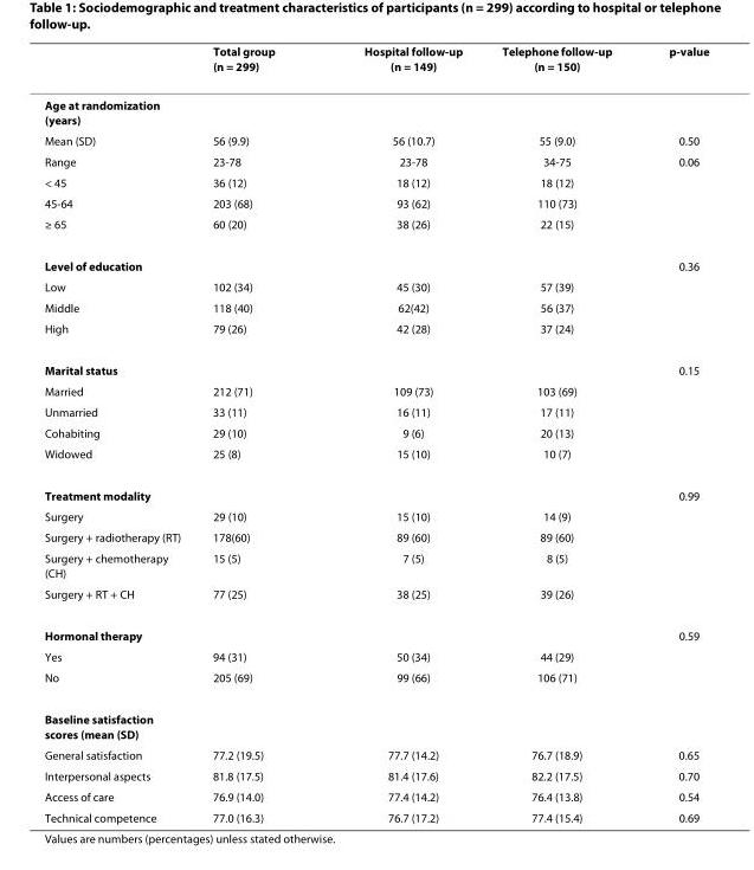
<table><thead><tr><td></td><td>Total group (n = 299)</td><td>Hospital follow-up (n = 149)</td><td>Telephone follow-up (n = 150)</td><td>p-value</td></tr></thead><tbody><tr><td colspan="5">Age at randomization (years)</td></tr><tr><td>Mean (SD)</td><td>56 (9.9)</td><td>56 (10.7)</td><td>55 (9.0)</td><td>0.50</td></tr><tr><td>Range</td><td>23-78</td><td>23-78</td><td>34-75</td><td>0.06</td></tr><tr><td>&lt; 45</td><td>36 (12)</td><td>18 (12)</td><td>18 (12)</td><td></td></tr><tr><td>45-64</td><td>203 (68)</td><td>93 (62)</td><td>110 (73)</td><td></td></tr><tr><td>≥ 65</td><td>60 (20)</td><td>38 (26)</td><td>22 (15)</td><td></td></tr><tr><td>Level of education</td><td></td><td></td><td></td><td>0.36</td></tr><tr><td>Low</td><td>102 (34)</td><td>45 (30)</td><td>57 (39)</td><td></td></tr><tr><td>Middle</td><td>118 (40)</td><td>62(42)</td><td>56 (37)</td><td></td></tr><tr><td>High</td><td>79 (26)</td><td>42 (28)</td><td>37 (24)</td><td></td></tr><tr><td>Marital status</td><td></td><td></td><td></td><td>0.15</td></tr><tr><td>Married</td><td>212 (71)</td><td>109 (73)</td><td>103 (69)</td><td></td></tr><tr><td>Unmarried</td><td>33 (11)</td><td>16 (11)</td><td>17 (11)</td><td></td></tr><tr><td>Cohabiting</td><td>29 (10)</td><td>9 (6)</td><td>20 (13)</td><td></td></tr><tr><td>Widowed</td><td>25 (8)</td><td>15 (10)</td><td>10 (7)</td><td></td></tr><tr><td>Treatment modality</td><td></td><td></td><td></td><td>0.99</td></tr><tr><td>Surgery</td><td>29 (10)</td><td>15 (10)</td><td>14 (9)</td><td></td></tr><tr><td>Surgery + radiotherapy (RT)</td><td>178(60)</td><td>89 (60)</td><td>89 (60)</td><td></td></tr><tr><td>Surgery + chemotherapy (CH)</td><td>15 (5)</td><td>7 (5)</td><td>8 (5)</td><td></td></tr><tr><td>Surgery + RT + CH</td><td>77 (25)</td><td>38 (25)</td><td>39 (26)</td><td></td></tr><tr><td>Hormonal therapy</td><td></td><td></td><td></td><td>0.59</td></tr><tr><td>Yes</td><td>94 (31)</td><td>50 (34)</td><td>44 (29)</td><td></td></tr><tr><td>No</td><td>205 (69)</td><td>99 (66)</td><td>106 (71)</td><td></td></tr><tr><td colspan="5">Baseline satisfaction scores (mean (SD)</td></tr><tr><td>General satisfaction</td><td>77.2 (19.5)</td><td>77.7 (14.2)</td><td>76.7 (18.9)</td><td>0.65</td></tr><tr><td>Interpersonal aspects</td><td>81.8 (17.5)</td><td>81.4 (17.6)</td><td>82.2 (17.5)</td><td>0.70</td></tr><tr><td>Access of care</td><td>76.9 (14.0)</td><td>77.4 (14.2)</td><td>76.4 (13.8)</td><td>0.54</td></tr><tr><td>Technical competence</td><td>77.0 (16.3)</td><td>76.7 (17.2)</td><td>77.4 (15.4)</td><td>0.69</td></tr></tbody></table>